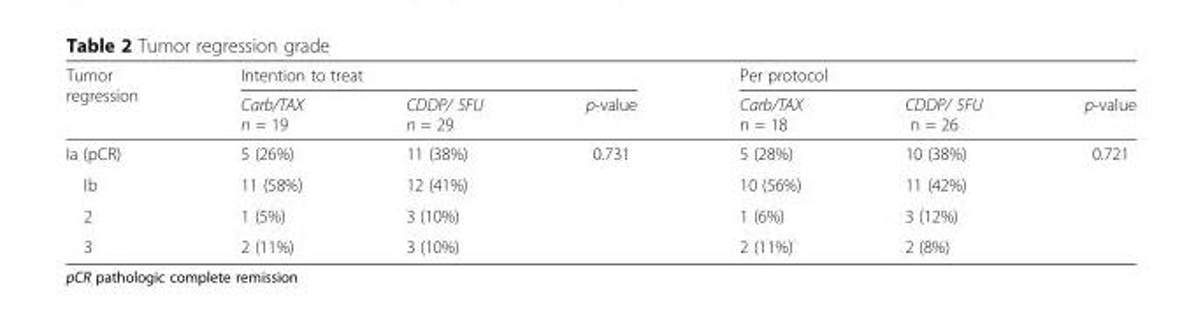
<table><thead><tr><td rowspan="2">Tumor regression</td><td colspan="3">Intention to treat</td><td colspan="3">Per protocol</td></tr><tr><td>Carb/TAX n = 19</td><td>CDDP/ 5FU n = 29</td><td>p-value</td><td>Carb/TAX n = 18</td><td>CDDP/ 5FU n = 26</td><td>p-value</td></tr></thead><tbody><tr><td>Ia (pCR)</td><td>5 (26%)</td><td>11 (38%)</td><td>0.731</td><td>5 (28%)</td><td>10 (38%)</td><td>0.721</td></tr><tr><td>Ib</td><td>11 (58%)</td><td>12 (41%)</td><td></td><td>10 (56%)</td><td>11 (42%)</td><td></td></tr><tr><td>2</td><td>1 (5%)</td><td>3 (10%)</td><td></td><td>1 (6%)</td><td>3 (12%)</td><td></td></tr><tr><td>3</td><td>2 (11%)</td><td>3 (10%)</td><td></td><td>2 (11%)</td><td>2 (8%)</td><td></td></tr></tbody></table>